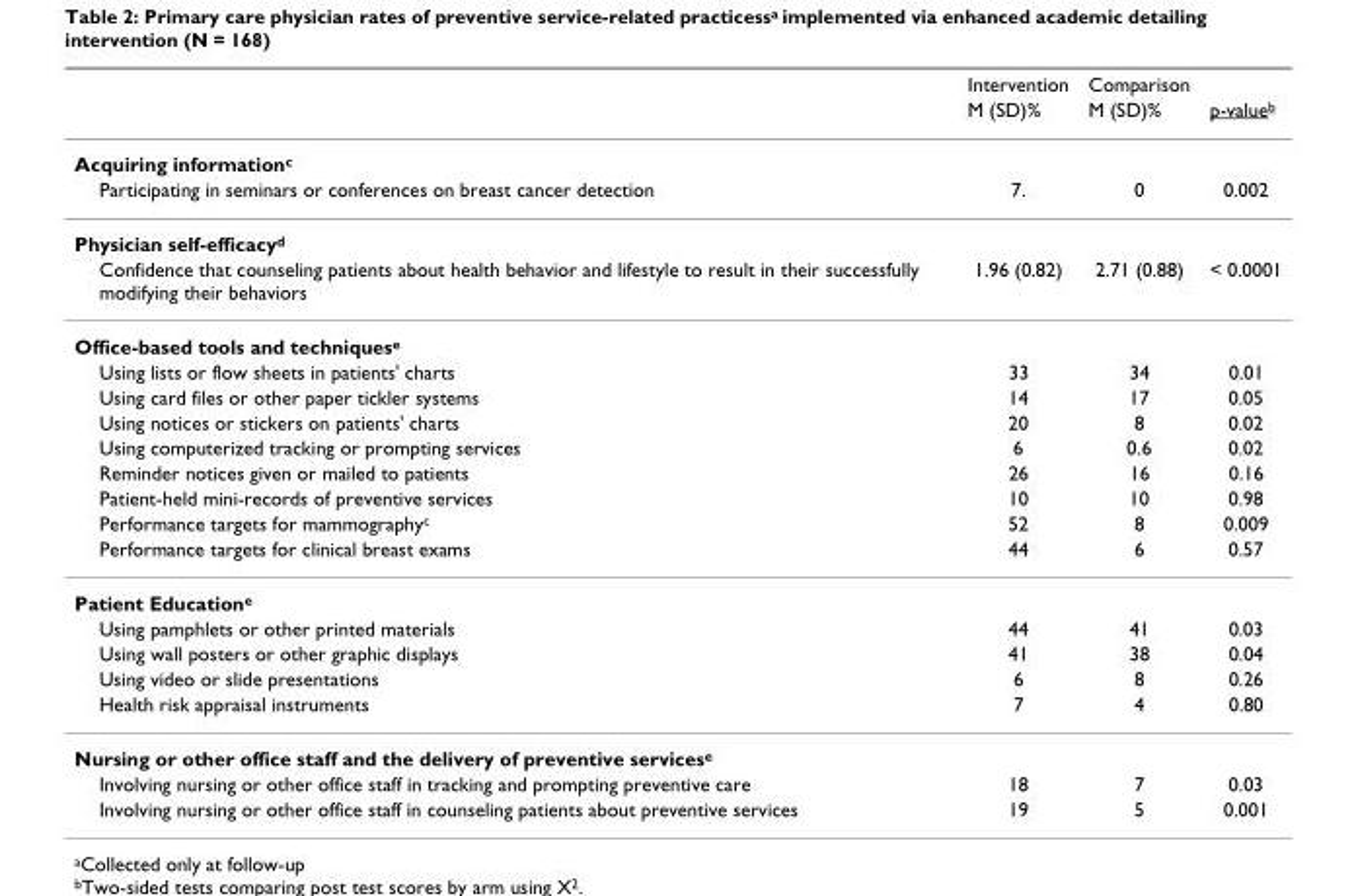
<table><thead><tr><td rowspan="2"></td><td rowspan="2">Intervention M (SD)%</td><td rowspan="2">Comparison M (SD)%</td><td rowspan="2">p-valueb</td></tr><tr></tr></thead><tbody><tr><td colspan="4">Acquiring informationc</td></tr><tr><td>Participating in seminars or conferences on breast cancer detection</td><td>7.</td><td>0</td><td>0.002</td></tr><tr><td colspan="4">Physician self-efficacy<sup>d</sup></td></tr><tr><td>Confidence that counseling patients about health behavior and lifestyle to result in their successfully modifying their behaviors</td><td>1.96 (0.82)</td><td>2.71 (0.88)</td><td>&lt; 0.0001</td></tr><tr><td colspan="4">Office-based tools and techniques<sup>e</sup></td></tr><tr><td>Using lists or flow sheets in patients&#x27; charts</td><td>33</td><td>34</td><td>0.01</td></tr><tr><td>Using card files or other paper tickler systems</td><td>14</td><td>17</td><td>0.05</td></tr><tr><td>Using notices or stickers on patients&#x27; charts</td><td>20</td><td>8</td><td>0.02</td></tr><tr><td>Using computerized tracking or prompting services</td><td>6</td><td>0.6</td><td>0.02</td></tr><tr><td>Reminder notices given or mailed to patients</td><td>26</td><td>16</td><td>0.16</td></tr><tr><td>Patient-held mini-records of preventive services</td><td>10</td><td>10</td><td>0.98</td></tr><tr><td>Performance targets for mammography<sup>c</sup></td><td>52</td><td>8</td><td>0.009</td></tr><tr><td>Performance targets for clinical breast exams</td><td>44</td><td>6</td><td>0.57</td></tr><tr><td colspan="4">Patient Education<sup>e</sup></td></tr><tr><td>Using pamphlets or other printed materials</td><td>44</td><td>41</td><td>0.03</td></tr><tr><td>Using wall posters or other graphic displays</td><td>41</td><td>38</td><td>0.04</td></tr><tr><td>Using video or slide presentations</td><td>6</td><td>8</td><td>0.26</td></tr><tr><td>Health risk appraisal instruments</td><td>7</td><td>4</td><td>0.80</td></tr><tr><td colspan="4">Nursing or other office staff and the delivery of preventive services<sup>e</sup></td></tr><tr><td>Involving nursing or other office staff in tracking and prompting preventive care</td><td>18</td><td>7</td><td>0.03</td></tr><tr><td>Involving nursing or other office staff in counseling patients about preventive services</td><td>19</td><td>5</td><td>0.001</td></tr></tbody></table>